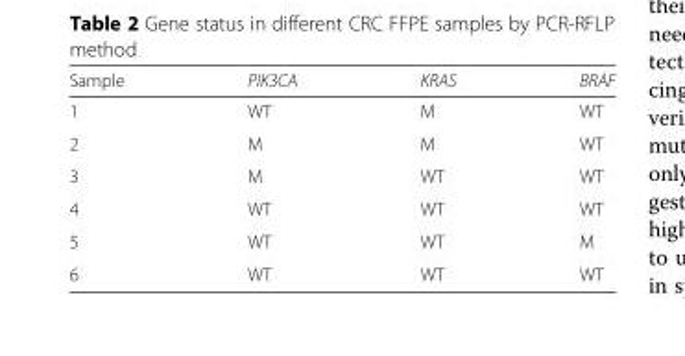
<table><thead><tr><td>Sample</td><td>PIK3CA</td><td>KRAS</td><td>BRAF</td></tr></thead><tbody><tr><td>1</td><td>WT</td><td>M</td><td>WT</td></tr><tr><td>2</td><td>M</td><td>M</td><td>WT</td></tr><tr><td>3</td><td>M</td><td>WT</td><td>WT</td></tr><tr><td>4</td><td>WT</td><td>WT</td><td>WT</td></tr><tr><td>5</td><td>WT</td><td>WT</td><td>M</td></tr><tr><td>6</td><td>WT</td><td>WT</td><td>WT</td></tr></tbody></table>